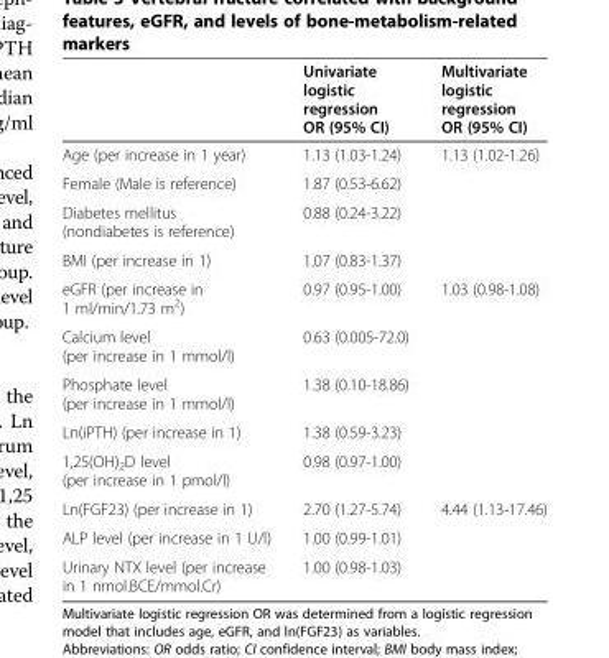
<table><thead><tr><td></td><td>Univariate logistic regression OR (95% CI)</td><td>Multivariate logistic regression OR (95% CI)</td></tr></thead><tbody><tr><td>Age (per increase in 1 year)</td><td>1.13 (1.03-1.24)</td><td>1.13 (1.02-1.26)</td></tr><tr><td>Female (Male is reference)</td><td>1.87 (0.53-6.62)</td><td></td></tr><tr><td>Diabetes mellitus (nondiabetes is reference)</td><td>0.88 (0.24-3.22)</td><td></td></tr><tr><td>BMI (per increase in 1)</td><td>1.07 (0.83-1.37)</td><td></td></tr><tr><td>eGFR (per increase in 1 ml/min/1.73 m<sup>2</sup>)</td><td>0.97 (0.95-1.00)</td><td>1.03 (0.98-1.08)</td></tr><tr><td>Calcium level (per increase in 1 mmol/l)</td><td>0.63 (0.005-72.0)</td><td></td></tr><tr><td>Phosphate level (per increase in 1 mmol/l)</td><td>1.38 (0.10-18.86)</td><td></td></tr><tr><td>Ln(iPTH) (per increase in 1)</td><td>1.38 (0.59-3.23)</td><td></td></tr><tr><td>1,25(OH)<sub>2</sub>D level (per increase in 1 pmol/l)</td><td>0.98 (0.97-1.00)</td><td></td></tr><tr><td>Ln(FGF23) (per increase in 1)</td><td>2.70 (1.27-5.74)</td><td>4.44 (1.13-17.46)</td></tr><tr><td>ALP level (per increase in 1 U/l)</td><td>1.00 (0.99-1.01)</td><td></td></tr><tr><td>Urinary NTX level (per increase in 1 nmol.BCE/mmol.Cr)</td><td>1.00 (0.98-1.03)</td><td></td></tr></tbody></table>